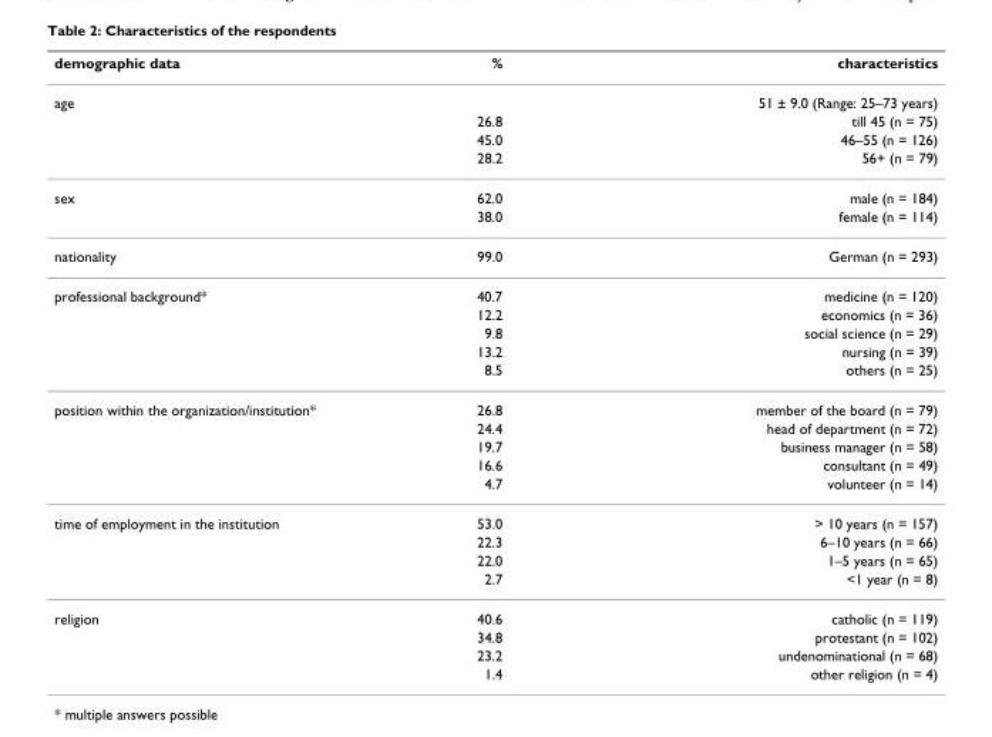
<table><thead><tr><td>demographic data</td><td>%</td><td>characteristics</td></tr></thead><tbody><tr><td rowspan="4">age</td><td></td><td>51 ± 9.0 (Range: 25–73 years)</td></tr><tr><td>26.8</td><td>till 45 (n = 75)</td></tr><tr><td>45.0</td><td>46–55 (n = 126)</td></tr><tr><td>28.2</td><td>56+ (n = 79)</td></tr><tr><td rowspan="2">sex</td><td>62.0</td><td>male (n = 184)</td></tr><tr><td>38.0</td><td>female (n = 114)</td></tr><tr><td>nationality</td><td>99.0</td><td>German (n = 293)</td></tr><tr><td rowspan="5">professional background*</td><td>40.7</td><td>medicine (n = 120)</td></tr><tr><td>12.2</td><td>economics (n = 36)</td></tr><tr><td>9.8</td><td>social science (n = 29)</td></tr><tr><td>13.2</td><td>nursing (n = 39)</td></tr><tr><td>8.5</td><td>others (n = 25)</td></tr><tr><td rowspan="5">position within the organization/institution*</td><td>26.8</td><td>member of the board (n = 79)</td></tr><tr><td>24.4</td><td>head of department (n = 72)</td></tr><tr><td>19.7</td><td>business manager (n = 58)</td></tr><tr><td>16.6</td><td>consultant (n = 49)</td></tr><tr><td>4.7</td><td>volunteer (n = 14)</td></tr><tr><td rowspan="4">time of employment in the institution</td><td>53.0</td><td>&gt; 10 years (n = 157)</td></tr><tr><td>22.3</td><td>6–10 years (n = 66)</td></tr><tr><td>22.0</td><td>1–5 years (n = 65)</td></tr><tr><td>2.7</td><td>&lt;1 year (n = 8)</td></tr><tr><td rowspan="4">religion</td><td>40.6</td><td>catholic (n = 119)</td></tr><tr><td>34.8</td><td>protestant (n = 102)</td></tr><tr><td>23.2</td><td>undenominational (n = 68)</td></tr><tr><td>1.4</td><td>other religion (n = 4)</td></tr></tbody></table>